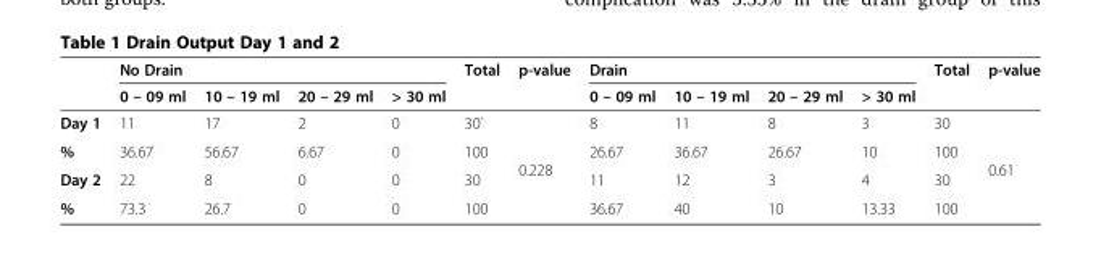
<table><thead><tr><td rowspan="2"></td><td colspan="4">No Drain</td><td rowspan="2">Total</td><td rowspan="2">p-value</td><td colspan="4">Drain</td><td rowspan="2">Total</td><td rowspan="2">p-value</td></tr><tr><td>0 – 09 ml</td><td>10 – 19 ml</td><td>20 – 29 ml</td><td>&gt; 30 ml</td><td>0 – 09 ml</td><td>10 – 19 ml</td><td>20 – 29 ml</td><td>&gt; 30 ml</td></tr></thead><tbody><tr><td>Day 1</td><td>11</td><td>17</td><td>2</td><td>0</td><td>30`</td><td></td><td>8</td><td>11</td><td>8</td><td>3</td><td>30</td><td></td></tr><tr><td>%</td><td>36.67</td><td>56.67</td><td>6.67</td><td>0</td><td>100</td><td rowspan="2">0.228</td><td>26.67</td><td>36.67</td><td>26.67</td><td>10</td><td>100</td><td rowspan="2">0.61</td></tr><tr><td>Day 2</td><td>22</td><td>8</td><td>0</td><td>0</td><td>30</td><td>11</td><td>12</td><td>3</td><td>4</td><td>30</td></tr><tr><td>%</td><td>73.3</td><td>26.7</td><td>0</td><td>0</td><td>100</td><td></td><td>36.67</td><td>40</td><td>10</td><td>13.33</td><td>100</td><td></td></tr></tbody></table>